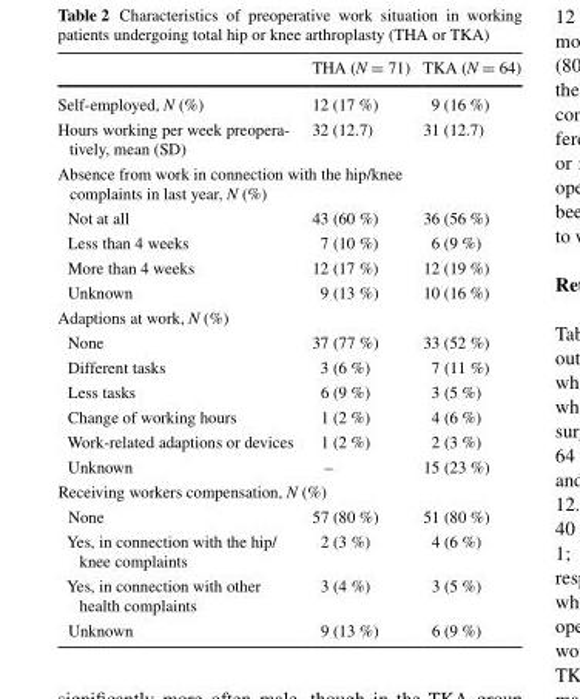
<table><thead><tr><td></td><td>THA (N = 71)</td><td>TKA (N = 64)</td></tr></thead><tbody><tr><td>Self-employed, N (%)</td><td>12 (17 %)</td><td>9 (16 %)</td></tr><tr><td>Hours working per week preopera- tively, mean (SD)</td><td>32 (12.7)</td><td>31 (12.7)</td></tr><tr><td colspan="3">Absence from work in connection with the hip/knee complaints in last year, N (%)</td></tr><tr><td>Not at all</td><td>43 (60 %)</td><td>36 (56 %)</td></tr><tr><td>Less than 4 weeks</td><td>7 (10 %)</td><td>6 (9 %)</td></tr><tr><td>More than 4 weeks</td><td>12 (17 %)</td><td>12 (19 %)</td></tr><tr><td>Unknown</td><td>9 (13 %)</td><td>10 (16 %)</td></tr><tr><td colspan="3">Adaptions at work, N (%)</td></tr><tr><td>None</td><td>37 (77 %)</td><td>33 (52 %)</td></tr><tr><td>Different tasks</td><td>3 (6 %)</td><td>7 (11 %)</td></tr><tr><td>Less tasks</td><td>6 (9 %)</td><td>3 (5 %)</td></tr><tr><td>Change of working hours</td><td>1 (2 %)</td><td>4 (6 %)</td></tr><tr><td>Work-related adaptions or devices</td><td>1 (2 %)</td><td>2 (3 %)</td></tr><tr><td>Unknown</td><td>–</td><td>15 (23 %)</td></tr><tr><td colspan="3">Receiving workers compensation, N (%)</td></tr><tr><td>None</td><td>57 (80 %)</td><td>51 (80 %)</td></tr><tr><td>Yes, in connection with the hip/ knee complaints</td><td>2 (3 %)</td><td>4 (6 %)</td></tr><tr><td>Yes, in connection with other health complaints</td><td>3 (4 %)</td><td>3 (5 %)</td></tr><tr><td>Unknown</td><td>9 (13 %)</td><td>6 (9 %)</td></tr></tbody></table>